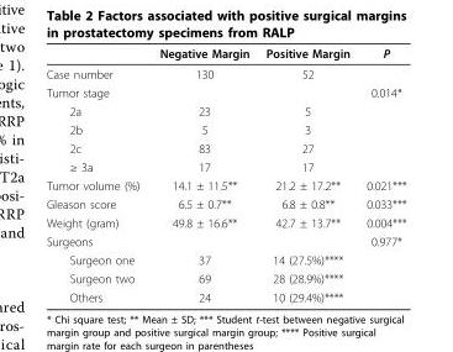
<table><thead><tr><td></td><td>Negative Margin</td><td>Positive Margin</td><td>P</td></tr></thead><tbody><tr><td>Case number</td><td>130</td><td>52</td><td></td></tr><tr><td>Tumor stage</td><td></td><td></td><td>0.014*</td></tr><tr><td>2a</td><td>23</td><td>5</td><td></td></tr><tr><td>2b</td><td>5</td><td>3</td><td></td></tr><tr><td>2c</td><td>83</td><td>27</td><td></td></tr><tr><td>≥ 3a</td><td>17</td><td>17</td><td></td></tr><tr><td>Tumor volume (%)</td><td>14.1 ± 11.5**</td><td>21.2 ± 17.2**</td><td>0.021***</td></tr><tr><td>Gleason score</td><td>6.5 ± 0.7**</td><td>6.8 ± 0.8**</td><td>0.033***</td></tr><tr><td>Weight (gram)</td><td>49.8 ± 16.6**</td><td>42.7 ± 13.7**</td><td>0.004***</td></tr><tr><td>Surgeons</td><td></td><td></td><td>0.977*</td></tr><tr><td>Surgeon one</td><td>37</td><td>14 (27.5%)****</td><td></td></tr><tr><td>Surgeon two</td><td>69</td><td>28 (28.9%)****</td><td></td></tr><tr><td>Others</td><td>24</td><td>10 (29.4%)****</td><td></td></tr></tbody></table>